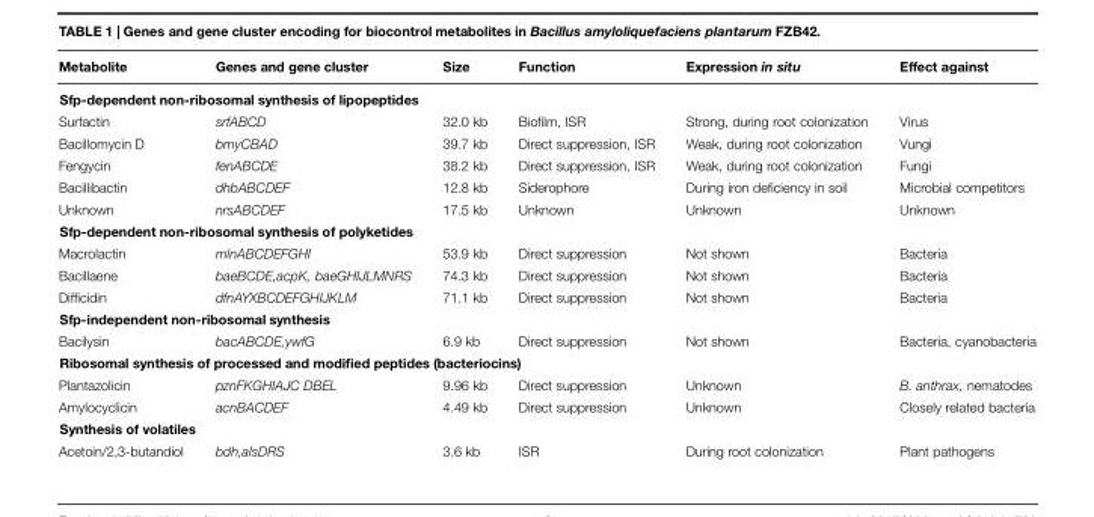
<table><thead><tr><td>Metabolite</td><td>Genes and gene cluster</td><td>Size</td><td>Function</td><td>Expression in situ</td><td>Effect against</td></tr></thead><tbody><tr><td colspan="6">Sfp-dependent non-ribosomal synthesis of lipopeptides</td></tr><tr><td>Surfactin</td><td>srfABCD</td><td>32.0 kb</td><td>Biofilm, ISR</td><td>Strong, during root colonization</td><td>Virus</td></tr><tr><td>Bacillomycin D</td><td>bmyCBAD</td><td>39.7 kb</td><td>Direct suppression, ISR</td><td>Weak, during root colonization</td><td>Vungi</td></tr><tr><td>Fengycin</td><td>fenABCDE</td><td>38.2 kb</td><td>Direct suppression, ISR</td><td>Weak, during root colonization</td><td>Fungi</td></tr><tr><td>Bacillibactin</td><td>dhbABCDEF</td><td>12.8 kb</td><td>Siderophore</td><td>During iron deficiency in soil</td><td>Microbial competitors</td></tr><tr><td>Unknown</td><td>nrsABCDEF</td><td>17.5 kb</td><td>Unknown</td><td>Unknown</td><td>Unknown</td></tr><tr><td colspan="6">Sfp-dependent non-ribosomal synthesis of polyketides</td></tr><tr><td>Macrolactin</td><td>mlnABCDEFGHI</td><td>53.9 kb</td><td>Direct suppression</td><td>Not shown</td><td>Bacteria</td></tr><tr><td>Bacillaene</td><td>baeBCDE,acpK, baeGHIJLMNRS</td><td>74.3 kb</td><td>Direct suppression</td><td>Not shown</td><td>Bacteria</td></tr><tr><td>Difficidin</td><td>dfnAYXBCDEFGHIJKLM</td><td>71.1 kb</td><td>Direct suppression</td><td>Not shown</td><td>Bacteria</td></tr><tr><td colspan="6">Sfp-independent non-ribosomal synthesis</td></tr><tr><td>Bacilysin</td><td>bacABCDE,ywfG</td><td>6.9 kb</td><td>Direct suppression</td><td>Not shown</td><td>Bacteria, cyanobacteria</td></tr><tr><td colspan="6">Ribosomal synthesis of processed and modified peptides (bacteriocins)</td></tr><tr><td>Plantazolicin</td><td>pznFKGHIAJC DBEL</td><td>9.96 kb</td><td>Direct suppression</td><td>Unknown</td><td>B. anthrax, nematodes</td></tr><tr><td>Amylocyclicin</td><td>acnBACDEF</td><td>4.49 kb</td><td>Direct suppression</td><td>Unknown</td><td>Closely related bacteria</td></tr><tr><td colspan="6">Synthesis of volatiles</td></tr><tr><td>Acetoin/2,3-butandiol</td><td>bdh,alsDRS</td><td>3.6 kb</td><td>ISR</td><td>During root colonization</td><td>Plant pathogens</td></tr></tbody></table>